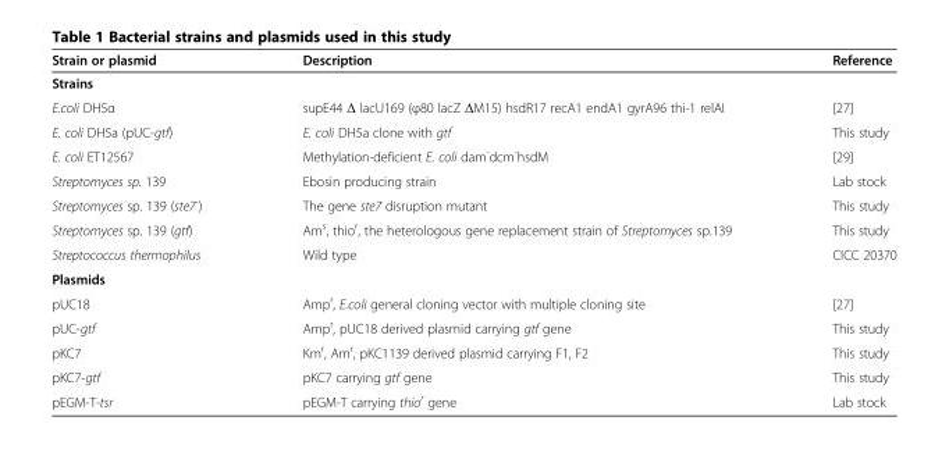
<table><thead><tr><td>Strain or plasmid</td><td>Description</td><td>Reference</td></tr></thead><tbody><tr><td colspan="3">Strains</td></tr><tr><td>E.coli DH5α</td><td>supE44 Δ lacU169 (φ80 lacZ ΔM15) hsdR17 recA1 endA1 gyrA96 thi-1 relAI</td><td>[27]</td></tr><tr><td>E. coli DH5a (pUC-gtf)</td><td>E. coli DH5a clone with gtf</td><td>This study</td></tr><tr><td>E. coli ET12567</td><td>Methylation-deficient E. coli dam<sup>-</sup>dcm<sup>-</sup>hsdM</td><td>[29]</td></tr><tr><td>Streptomyces sp. 139</td><td>Ebosin producing strain</td><td>Lab stock</td></tr><tr><td>Streptomyces sp. 139 (ste7<sup>-</sup>)</td><td>The gene ste7 disruption mutant</td><td>This study</td></tr><tr><td>Streptomyces sp. 139 (gtf)</td><td>Am<sup>s</sup>, thio<sup>r</sup>, the heterologous gene replacement strain of Streptomyces sp.139</td><td>This study</td></tr><tr><td>Streptococcus thermophilus</td><td>Wild type</td><td>CICC 20370</td></tr><tr><td colspan="3">Plasmids</td></tr><tr><td>pUC18</td><td>Amp<sup>r</sup>, E.coli general cloning vector with multiple cloning site</td><td>[27]</td></tr><tr><td>pUC-gtf</td><td>Amp<sup>r</sup>, pUC18 derived plasmid carrying gtf gene</td><td>This study</td></tr><tr><td>pKC7</td><td>Km<sup>r</sup>, Am<sup>r</sup>, pKC1139 derived plasmid carrying F1, F2</td><td>This study</td></tr><tr><td>pKC7-gtf</td><td>pKC7 carrying gtf gene</td><td>This study</td></tr><tr><td>pEGM-T-tsr</td><td>pEGM-T carrying thio<sup>r</sup> gene</td><td>Lab stock</td></tr></tbody></table>